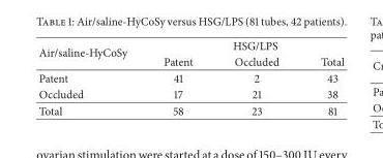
<table><thead><tr><td rowspan="2">Air/saline-HyCoSy</td><td colspan="3">HSG/LPS</td></tr><tr><td>Patent</td><td>Occluded</td><td>Total</td></tr></thead><tbody><tr><td>Patent</td><td>41</td><td>2</td><td>43</td></tr><tr><td>Occluded</td><td>17</td><td>21</td><td>38</td></tr><tr><td>Total</td><td>58</td><td>23</td><td>81</td></tr></tbody></table>